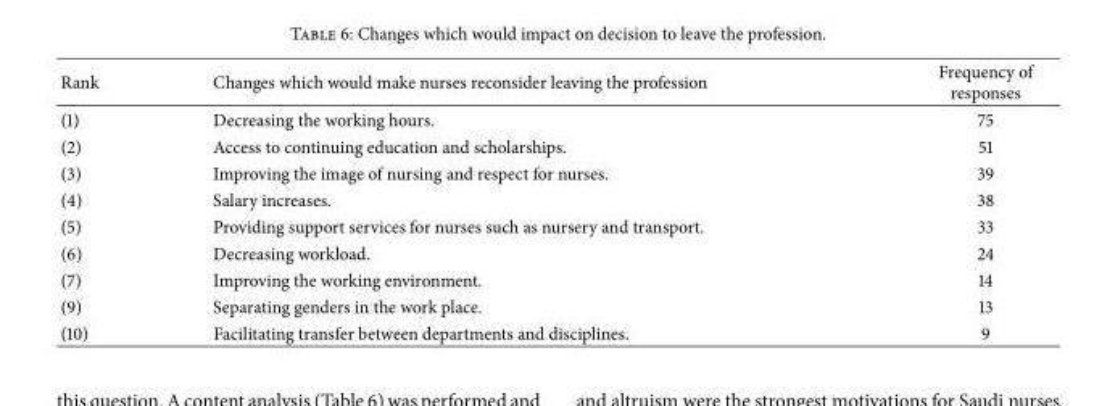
<table><thead><tr><td>Rank</td><td>Changes which would make nurses reconsider leaving the profession</td><td>Frequency of responses</td></tr></thead><tbody><tr><td>(1)</td><td>Decreasing the working hours.</td><td>75</td></tr><tr><td>(2)</td><td>Access to continuing education and scholarships.</td><td>51</td></tr><tr><td>(3)</td><td>Improving the image of nursing and respect for nurses.</td><td>39</td></tr><tr><td>(4)</td><td>Salary increases.</td><td>38</td></tr><tr><td>(5)</td><td>Providing support services for nurses such as nursery and transport.</td><td>33</td></tr><tr><td>(6)</td><td>Decreasing workload.</td><td>24</td></tr><tr><td>(7)</td><td>Improving the working environment.</td><td>14</td></tr><tr><td>(9)</td><td>Separating genders in the work place.</td><td>13</td></tr><tr><td>(10)</td><td>Facilitating transfer between departments and disciplines.</td><td>9</td></tr></tbody></table>